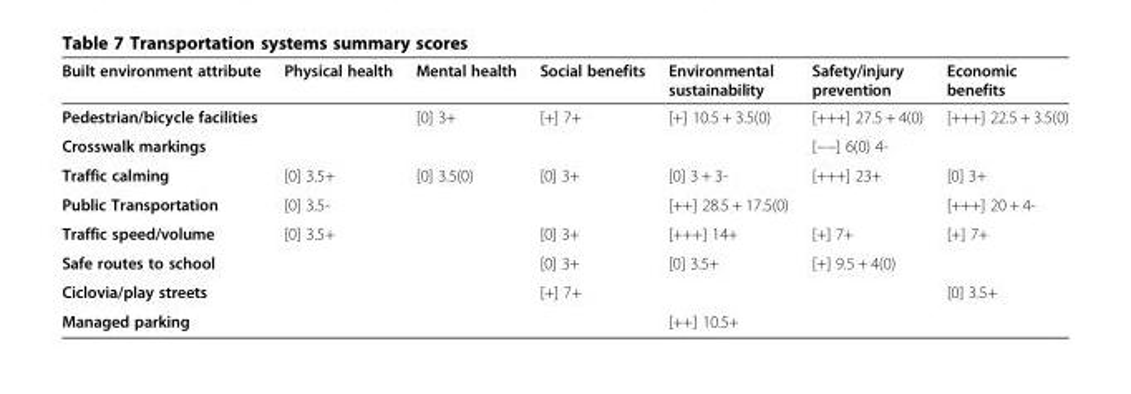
<table><thead><tr><td>Built environment attribute</td><td>Physical health</td><td>Mental health</td><td>Social benefits</td><td>Environmental sustainability</td><td>Safety/injury prevention</td><td>Economic benefits</td></tr></thead><tbody><tr><td>Pedestrian/bicycle facilities</td><td></td><td>[0] 3+</td><td>[+] 7+</td><td>[+] 10.5 + 3.5(0)</td><td>[+++] 27.5 + 4(0)</td><td>[+++] 22.5 + 3.5(0)</td></tr><tr><td>Crosswalk markings</td><td></td><td></td><td></td><td></td><td>[−−] 6(0) 4-</td><td></td></tr><tr><td>Traffic calming</td><td>[0] 3.5+</td><td>[0] 3.5(0)</td><td>[0] 3+</td><td>[0] 3 + 3-</td><td>[+++] 23+</td><td>[0] 3+</td></tr><tr><td>Public Transportation</td><td>[0] 3.5-</td><td></td><td></td><td>[++] 28.5 + 17.5(0)</td><td></td><td>[+++] 20 + 4-</td></tr><tr><td>Traffic speed/volume</td><td>[0] 3.5+</td><td></td><td>[0] 3+</td><td>[+++] 14+</td><td>[+] 7+</td><td>[+] 7+</td></tr><tr><td>Safe routes to school</td><td></td><td></td><td>[0] 3+</td><td>[0] 3.5+</td><td>[+] 9.5 + 4(0)</td><td></td></tr><tr><td>Ciclovia/play streets</td><td></td><td></td><td>[+] 7+</td><td></td><td></td><td>[0] 3.5+</td></tr><tr><td>Managed parking</td><td></td><td></td><td></td><td>[++] 10.5+</td><td></td><td></td></tr></tbody></table>